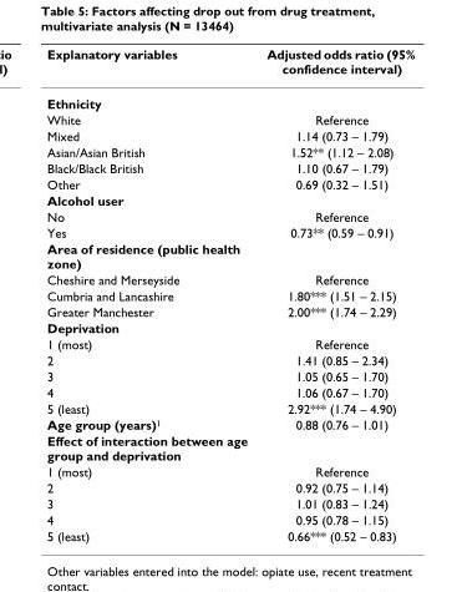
<table><thead><tr><td>Explanatory variables</td><td>Adjusted odds ratio (95% confidence interval)</td></tr></thead><tbody><tr><td colspan="2">Ethnicity</td></tr><tr><td>White</td><td>Reference</td></tr><tr><td>Mixed</td><td>1.14 (0.73 – 1.79)</td></tr><tr><td>Asian/Asian British</td><td>1.52** (1.12 – 2.08)</td></tr><tr><td>Black/Black British</td><td>1.10 (0.67 – 1.79)</td></tr><tr><td>Other</td><td>0.69 (0.32 – 1.51)</td></tr><tr><td colspan="2">Alcohol user</td></tr><tr><td>No</td><td>Reference</td></tr><tr><td>Yes</td><td>0.73** (0.59 – 0.91)</td></tr><tr><td colspan="2">Area of residence (public health zone)</td></tr><tr><td>Cheshire and Merseyside</td><td>Reference</td></tr><tr><td>Cumbria and Lancashire</td><td>1.80*** (1.51 – 2.15)</td></tr><tr><td>Greater Manchester</td><td>2.00*** (1.74 – 2.29)</td></tr><tr><td colspan="2">Deprivation</td></tr><tr><td>1 (most)</td><td>Reference</td></tr><tr><td>2</td><td>1.41 (0.85 – 2.34)</td></tr><tr><td>3</td><td>1.05 (0.65 – 1.70)</td></tr><tr><td>4</td><td>1.06 (0.67 – 1.70)</td></tr><tr><td>5 (least)</td><td>2.92*** (1.74 – 4.90)</td></tr><tr><td>Age group (years)<sup>1</sup></td><td>0.88 (0.76 – 1.01)</td></tr><tr><td colspan="2">Effect of interaction between age group and deprivation</td></tr><tr><td>1 (most)</td><td>Reference</td></tr><tr><td>2</td><td>0.92 (0.75 – 1.14)</td></tr><tr><td>3</td><td>1.01 (0.83 – 1.24)</td></tr><tr><td>4</td><td>0.95 (0.78 – 1.15)</td></tr><tr><td>5 (least)</td><td>0.66*** (0.52 – 0.83)</td></tr></tbody></table>